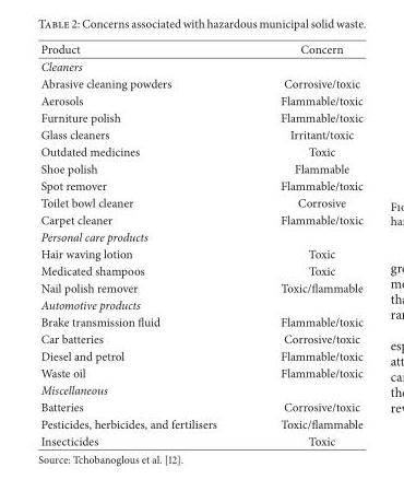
<table><thead><tr><td>Product</td><td>Concern</td></tr></thead><tbody><tr><td colspan="2">Cleaners</td></tr><tr><td>Abrasive cleaning powders</td><td>Corrosive/toxic</td></tr><tr><td>Aerosols</td><td>Flammable/toxic</td></tr><tr><td>Furniture polish</td><td>Flammable/toxic</td></tr><tr><td>Glass cleaners</td><td>Irritant/toxic</td></tr><tr><td>Outdated medicines</td><td>Toxic</td></tr><tr><td>Shoe polish</td><td>Flammable</td></tr><tr><td>Spot remover</td><td>Flammable/toxic</td></tr><tr><td>Toilet bowl cleaner</td><td>Corrosive</td></tr><tr><td>Carpet cleaner</td><td>Flammable/toxic</td></tr><tr><td colspan="2">Personal care products</td></tr><tr><td>Hair waving lotion</td><td>Toxic</td></tr><tr><td>Medicated shampoos</td><td>Toxic</td></tr><tr><td>Nail polish remover</td><td>Toxic/flammable</td></tr><tr><td colspan="2">Automotive products</td></tr><tr><td>Brake transmission fluid</td><td>Flammable/toxic</td></tr><tr><td>Car batteries</td><td>Corrosive/toxic</td></tr><tr><td>Diesel and petrol</td><td>Flammable/toxic</td></tr><tr><td>Waste oil</td><td>Flammable/toxic</td></tr><tr><td colspan="2">Miscellaneous</td></tr><tr><td>Batteries</td><td>Corrosive/toxic</td></tr><tr><td>Pesticides, herbicides, and fertilisers</td><td>Toxic/flammable</td></tr><tr><td>Insecticides</td><td>Toxic</td></tr></tbody></table>